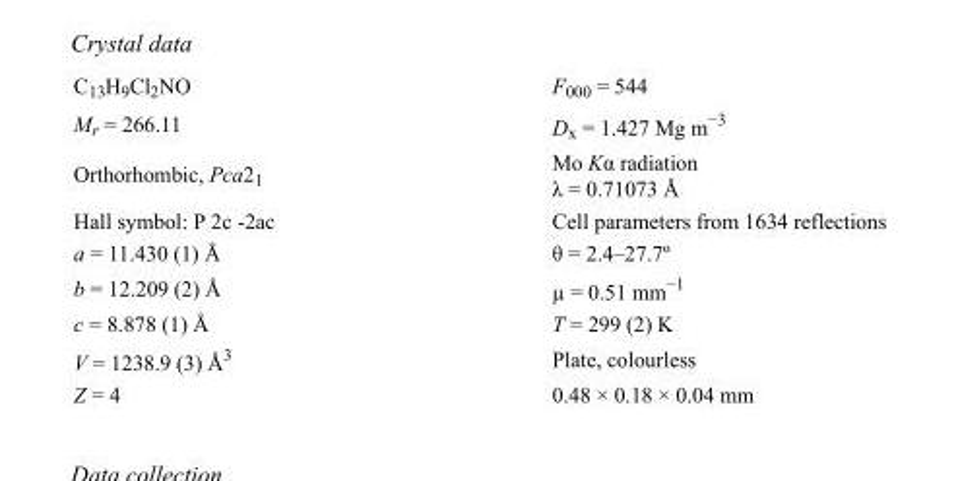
<table><tbody><tr><td>C<sub>13</sub>H<sub>9</sub>Cl<sub>2</sub>NO</td><td>F<sub>000</sub> = 544</td></tr><tr><td>M<sub>r</sub> = 266.11</td><td>D<sub>x</sub> = 1.427 Mg m<sup>−3</sup></td></tr><tr><td>Orthorhombic, Pca2<sub>1</sub></td><td>Mo Kα radiation λ = 0.71073 Å</td></tr><tr><td>Hall symbol: P 2c -2ac</td><td>Cell parameters from 1634 reflections</td></tr><tr><td>a = 11.430 (1) Å</td><td>θ = 2.4–27.7º</td></tr><tr><td>b = 12.209 (2) Å</td><td>µ = 0.51 mm<sup>−1</sup></td></tr><tr><td>c = 8.878 (1) Å</td><td>T = 299 (2) K</td></tr><tr><td>V = 1238.9 (3) Å<sup>3</sup></td><td>Plate, colourless</td></tr><tr><td>Z = 4</td><td>0.48 × 0.18 × 0.04 mm</td></tr></tbody></table>